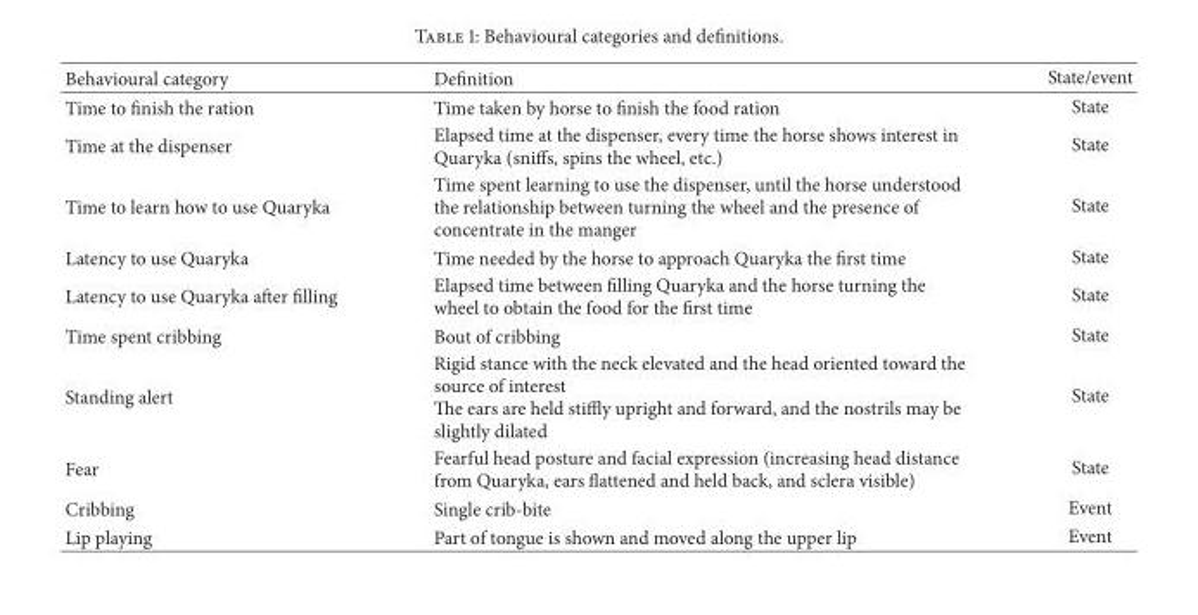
<table><thead><tr><td>Behavioural category</td><td>Definition</td><td>State/event</td></tr></thead><tbody><tr><td>Time to finish the ration</td><td>Time taken by horse to finish the food ration</td><td>State</td></tr><tr><td>Time at the dispenser</td><td>Elapsed time at the dispenser, every time the horse shows interest in Quaryka (sniffs, spins the wheel, etc.)</td><td>State</td></tr><tr><td>Time to learn how to use Quaryka</td><td>Time spent learning to use the dispenser, until the horse understood the relationship between turning the wheel and the presence of concentrate in the manger</td><td>State</td></tr><tr><td>Latency to use Quaryka</td><td>Time needed by the horse to approach Quaryka the first time</td><td>State</td></tr><tr><td>Latency to use Quaryka after filling</td><td>Elapsed time between filling Quaryka and the horse turning the wheel to obtain the food for the first time</td><td>State</td></tr><tr><td>Time spent cribbing</td><td>Bout of cribbing</td><td>State</td></tr><tr><td>Standing alert</td><td>Rigid stance with the neck elevated and the head oriented toward the source of interest The ears are held stiffly upright and forward, and the nostrils may be slightly dilated</td><td>State</td></tr><tr><td>Fear</td><td>Fearful head posture and facial expression (increasing head distance from Quaryka, ears flattened and held back, and sclera visible)</td><td>State</td></tr><tr><td>Cribbing</td><td>Single crib-bite</td><td>Event</td></tr><tr><td>Lip playing</td><td>Part of tongue is shown and moved along the upper lip</td><td>Event</td></tr></tbody></table>